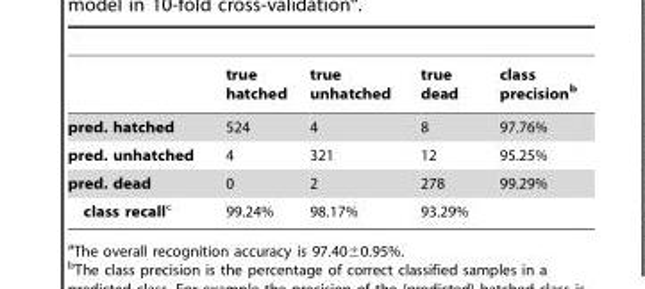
<table><thead><tr><td></td><td>true hatched</td><td>true unhatched</td><td>true dead</td><td>class precision<sup>b</sup></td></tr></thead><tbody><tr><td>pred. hatched</td><td>524</td><td>4</td><td>8</td><td>97.76%</td></tr><tr><td>pred. unhatched</td><td>4</td><td>321</td><td>12</td><td>95.25%</td></tr><tr><td>pred. dead</td><td>0</td><td>2</td><td>278</td><td>99.29%</td></tr><tr><td>class recallc</td><td>99.24%</td><td>98.17%</td><td>93.29%</td><td></td></tr></tbody></table>